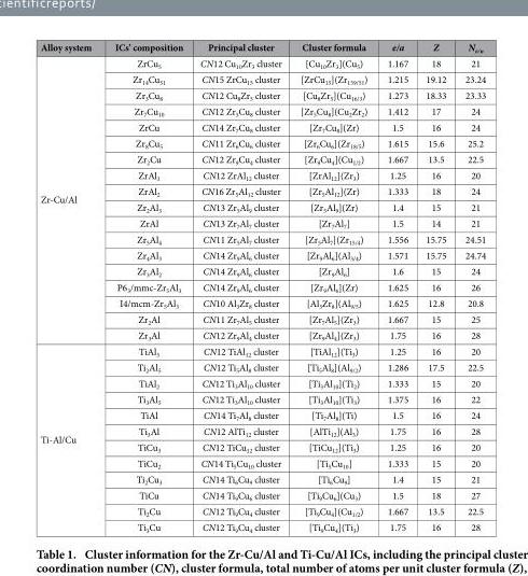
<table><thead><tr><td>Alloy system</td><td>ICs’ composition</td><td>Principal cluster</td><td>Cluster formula</td><td>e/a</td><td>Z</td><td>N<sub>e/u</sub></td></tr></thead><tbody><tr><td rowspan="18">Zr-Cu/Al</td><td>ZrCu<sub>5</sub></td><td>CN12 Cu<sub>10</sub>Zr<sub>3</sub> cluster</td><td>[Cu<sub>10</sub>Zr<sub>3</sub>](Cu<sub>5</sub>)</td><td>1.167</td><td>18</td><td>21</td></tr><tr><td>Zr<sub>14</sub>Cu<sub>51</sub></td><td>CN15 ZrCu<sub>15</sub> cluster</td><td>[ZrCu<sub>15</sub>](Zr<sub>159/51</sub>)</td><td>1.215</td><td>19.12</td><td>23.24</td></tr><tr><td>Zr<sub>3</sub>Cu<sub>8</sub></td><td>CN12 Cu<sub>8</sub>Zr<sub>5</sub> cluster</td><td>[Cu<sub>8</sub>Zr<sub>5</sub>](Cu<sub>16/3</sub>)</td><td>1.273</td><td>18.33</td><td>23.33</td></tr><tr><td>Zr<sub>7</sub>Cu<sub>10</sub></td><td>CN12 Zr<sub>5</sub>Cu<sub>8</sub> cluster</td><td>[Zr<sub>5</sub>Cu<sub>8</sub>](Cu<sub>2</sub>Zr<sub>2</sub>)</td><td>1.412</td><td>17</td><td>24</td></tr><tr><td>ZrCu</td><td>CN14 Zr<sub>7</sub>Cu<sub>8</sub> cluster</td><td>[Zr<sub>7</sub>Cu<sub>8</sub>](Zr)</td><td>1.5</td><td>16</td><td>24</td></tr><tr><td>Zr<sub>8</sub>Cu<sub>5</sub></td><td>CN11 Zr<sub>6</sub>Cu<sub>6</sub> cluster</td><td>[Zr<sub>6</sub>Cu<sub>6</sub>](Zr<sub>18/5</sub>)</td><td>1.615</td><td>15.6</td><td>25.2</td></tr><tr><td>Zr<sub>2</sub>Cu</td><td>CN12 Zr<sub>9</sub>Cu<sub>4</sub> cluster</td><td>[Zr<sub>9</sub>Cu<sub>4</sub>](Cu<sub>1/2</sub>)</td><td>1.667</td><td>13.5</td><td>22.5</td></tr><tr><td>ZrAl<sub>3</sub></td><td>CN12 ZrAl<sub>12</sub> cluster</td><td>[ZrAl<sub>12</sub>](Zr<sub>3</sub>)</td><td>1.25</td><td>16</td><td>20</td></tr><tr><td>ZrAl<sub>2</sub></td><td>CN16 Zr<sub>5</sub>Al<sub>12</sub> cluster</td><td>[Zr<sub>5</sub>Al<sub>12</sub>](Zr)</td><td>1.333</td><td>18</td><td>24</td></tr><tr><td>Zr<sub>2</sub>Al<sub>3</sub></td><td>CN13 Zr<sub>5</sub>Al<sub>9</sub> cluster</td><td>[Zr<sub>5</sub>Al<sub>9</sub>](Zr)</td><td>1.4</td><td>15</td><td>21</td></tr><tr><td>ZrAl</td><td>CN13 Zr<sub>7</sub>Al<sub>7</sub> cluster</td><td>[Zr<sub>7</sub>Al<sub>7</sub>]</td><td>1.5</td><td>14</td><td>21</td></tr><tr><td>Zr<sub>5</sub>Al<sub>4</sub></td><td>CN11 Zr<sub>5</sub>Al<sub>7</sub> cluster</td><td>[Zr<sub>5</sub>Al<sub>7</sub>](Zr<sub>15/4</sub>)</td><td>1.556</td><td>15.75</td><td>24.51</td></tr><tr><td>Zr<sub>4</sub>Al<sub>3</sub></td><td>CN14 Zr<sub>9</sub>Al<sub>6</sub> cluster</td><td>[Zr<sub>9</sub>Al<sub>6</sub>](Al<sub>3/4</sub>)</td><td>1.571</td><td>15.75</td><td>24.74</td></tr><tr><td>Zr<sub>3</sub>Al<sub>2</sub></td><td>CN14 Zr<sub>9</sub>Al<sub>6</sub> cluster</td><td>[Zr<sub>9</sub>Al<sub>6</sub>]</td><td>1.6</td><td>15</td><td>24</td></tr><tr><td>P6<sub>3</sub>/mmc-Zr<sub>5</sub>Al<sub>3</sub></td><td>CN14 Zr<sub>9</sub>Al<sub>6</sub> cluster</td><td>[Zr<sub>9</sub>Al<sub>6</sub>](Zr)</td><td>1.625</td><td>16</td><td>26</td></tr><tr><td>I4/mcm-Zr<sub>5</sub>Al<sub>3</sub></td><td>CN10 Al<sub>3</sub>Zr<sub>8</sub> cluster</td><td>[Al<sub>3</sub>Zr<sub>8</sub>](Al<sub>9/5</sub>)</td><td>1.625</td><td>12.8</td><td>20.8</td></tr><tr><td>Zr<sub>2</sub>Al</td><td>CN11 Zr<sub>7</sub>Al<sub>5</sub> cluster</td><td>[Zr<sub>7</sub>Al<sub>5</sub>](Zr<sub>3</sub>)</td><td>1.667</td><td>15</td><td>25</td></tr><tr><td>Zr<sub>3</sub>Al</td><td>CN12 Zr<sub>9</sub>Al<sub>4</sub> cluster</td><td>[Zr<sub>9</sub>Al<sub>4</sub>](Zr<sub>3</sub>)</td><td>1.75</td><td>16</td><td>28</td></tr><tr><td rowspan="12">Ti-Al/Cu</td><td>TiAl<sub>3</sub></td><td>CN12 TiAl<sub>12</sub> cluster</td><td>[TiAl<sub>12</sub>](Ti<sub>3</sub>)</td><td>1.25</td><td>16</td><td>20</td></tr><tr><td>Ti<sub>2</sub>Al<sub>5</sub></td><td>CN12 Ti<sub>5</sub>Al<sub>8</sub> cluster</td><td>[Ti<sub>5</sub>Al<sub>8</sub>](Al<sub>9/2</sub>)</td><td>1.286</td><td>17.5</td><td>22.5</td></tr><tr><td>TiAl<sub>2</sub></td><td>CN12 Ti<sub>3</sub>Al<sub>10</sub> cluster</td><td>[Ti<sub>3</sub>Al<sub>10</sub>](Ti<sub>2</sub>)</td><td>1.333</td><td>15</td><td>20</td></tr><tr><td>Ti<sub>3</sub>Al<sub>5</sub></td><td>CN12 Ti<sub>3</sub>Al<sub>10</sub> cluster</td><td>[Ti<sub>3</sub>Al<sub>10</sub>](Ti<sub>3</sub>)</td><td>1.375</td><td>16</td><td>22</td></tr><tr><td>TiAl</td><td>CN14 Ti<sub>7</sub>Al<sub>8</sub> cluster</td><td>[Ti<sub>7</sub>Al<sub>8</sub>](Ti)</td><td>1.5</td><td>16</td><td>24</td></tr><tr><td>Ti<sub>3</sub>Al</td><td>CN12 AlTi<sub>12</sub> cluster</td><td>[AlTi<sub>12</sub>](Al<sub>3</sub>)</td><td>1.75</td><td>16</td><td>28</td></tr><tr><td>TiCu<sub>3</sub></td><td>CN12 TiCu<sub>12</sub> cluster</td><td>[TiCu<sub>12</sub>](Ti<sub>3</sub>)</td><td>1.25</td><td>16</td><td>20</td></tr><tr><td>TiCu<sub>2</sub></td><td>CN14 Ti<sub>5</sub>Cu<sub>10</sub> cluster</td><td>[Ti<sub>5</sub>Cu<sub>10</sub>]</td><td>1.333</td><td>15</td><td>20</td></tr><tr><td>Ti<sub>2</sub>Cu<sub>3</sub></td><td>CN14 Ti<sub>6</sub>Cu<sub>9</sub> cluster</td><td>[Ti<sub>6</sub>Cu<sub>9</sub>]</td><td>1.4</td><td>15</td><td>21</td></tr><tr><td>TiCu</td><td>CN14 Ti<sub>9</sub>Cu<sub>6</sub> cluster</td><td>[Ti<sub>9</sub>Cu<sub>6</sub>](Cu<sub>3</sub>)</td><td>1.5</td><td>18</td><td>27</td></tr><tr><td>Ti<sub>2</sub>Cu</td><td>CN12 Ti<sub>9</sub>Cu<sub>4</sub> cluster</td><td>[Ti<sub>9</sub>Cu<sub>4</sub>](Cu<sub>1/2</sub>)</td><td>1.667</td><td>13.5</td><td>22.5</td></tr><tr><td>Ti<sub>3</sub>Cu</td><td>CN12 Ti<sub>9</sub>Cu<sub>4</sub> cluster</td><td>[Ti<sub>9</sub>Cu<sub>4</sub>](Ti<sub>3</sub>)</td><td>1.75</td><td>16</td><td>28</td></tr></tbody></table>